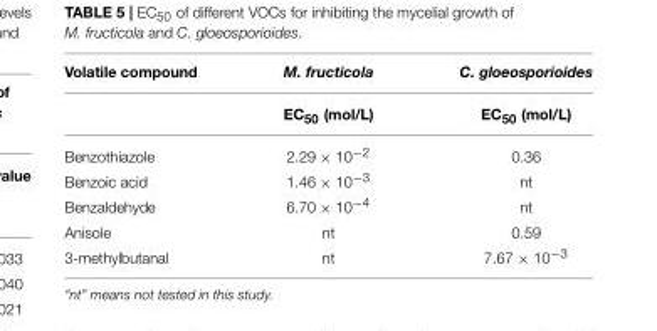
<table><thead><tr><td rowspan="2">Volatile compound</td><td rowspan="2">M. fructicola EC<sub>50</sub> (mol/L)</td><td rowspan="2">C. gloeosporioides EC<sub>50</sub> (mol/L)</td></tr><tr></tr></thead><tbody><tr><td>Benzothiazole</td><td>2.29 × 10<sup>−2</sup></td><td>0.36</td></tr><tr><td>Benzoic acid</td><td>1.46 × 10<sup>−3</sup></td><td>nt</td></tr><tr><td>Benzaldehyde</td><td>6.70 × 10<sup>−4</sup></td><td>nt</td></tr><tr><td>Anisole</td><td>nt</td><td>0.59</td></tr><tr><td>3-methylbutanal</td><td>nt</td><td>7.67 × 10<sup>−3</sup></td></tr></tbody></table>